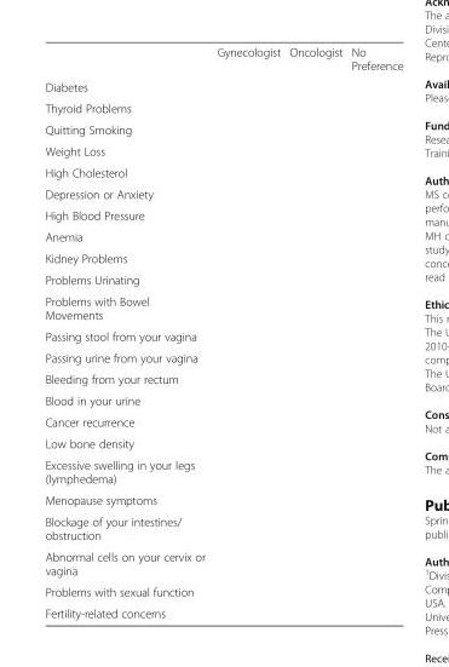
<table><thead><tr><td></td><td>Gynecologist</td><td>Oncologist</td><td>No Preference</td></tr></thead><tbody><tr><td colspan="4">Diabetes</td></tr><tr><td colspan="4">Thyroid Problems</td></tr><tr><td colspan="4">Quitting Smoking</td></tr><tr><td colspan="4">Weight Loss</td></tr><tr><td colspan="4">High Cholesterol</td></tr><tr><td colspan="4">Depression or Anxiety</td></tr><tr><td colspan="4">High Blood Pressure</td></tr><tr><td colspan="4">Anemia</td></tr><tr><td colspan="4">Kidney Problems</td></tr><tr><td colspan="4">Problems Urinating</td></tr><tr><td colspan="4">Problems with Bowel Movements</td></tr><tr><td colspan="4">Passing stool from your vagina</td></tr><tr><td colspan="4">Passing urine from your vagina</td></tr><tr><td colspan="4">Bleeding from your rectum</td></tr><tr><td colspan="4">Blood in your urine</td></tr><tr><td colspan="4">Cancer recurrence</td></tr><tr><td colspan="4">Low bone density</td></tr><tr><td colspan="4">Excessive swelling in your legs (lymphedema)</td></tr><tr><td colspan="4">Menopause symptoms</td></tr><tr><td colspan="4">Blockage of your intestines/ obstruction</td></tr><tr><td colspan="4">Abnormal cells on your cervix or vagina</td></tr><tr><td colspan="4">Problems with sexual function</td></tr><tr><td>Fertility-related concerns</td><td></td><td></td><td></td></tr></tbody></table>